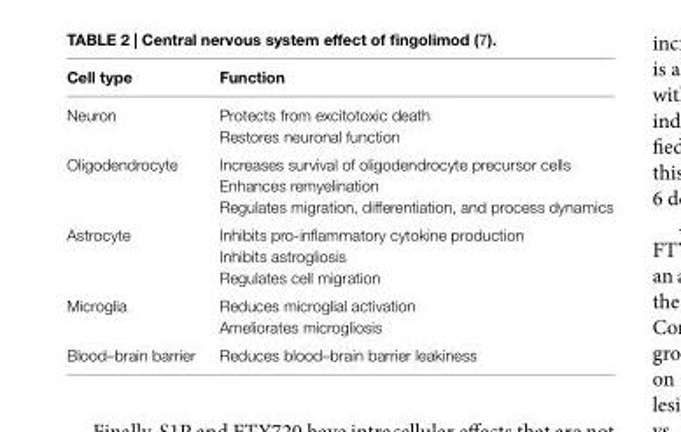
<table><thead><tr><td>Cell type</td><td>Function</td></tr></thead><tbody><tr><td rowspan="2">Neuron</td><td>Protects from excitotoxic death</td></tr><tr><td>Restores neuronal function</td></tr><tr><td rowspan="3">Oligodendrocyte</td><td>Increases survival of oligodendrocyte precursor cells</td></tr><tr><td>Enhances remyelination</td></tr><tr><td>Regulates migration, differentiation, and process dynamics</td></tr><tr><td rowspan="3">Astrocyte</td><td>Inhibits pro-inflammatory cytokine production</td></tr><tr><td>Inhibits astrogliosis</td></tr><tr><td>Regulates cell migration</td></tr><tr><td rowspan="2">Microglia</td><td>Reduces microglial activation</td></tr><tr><td>Ameliorates microgliosis</td></tr><tr><td>Blood–brain barrier</td><td>Reduces blood–brain barrier leakiness</td></tr></tbody></table>